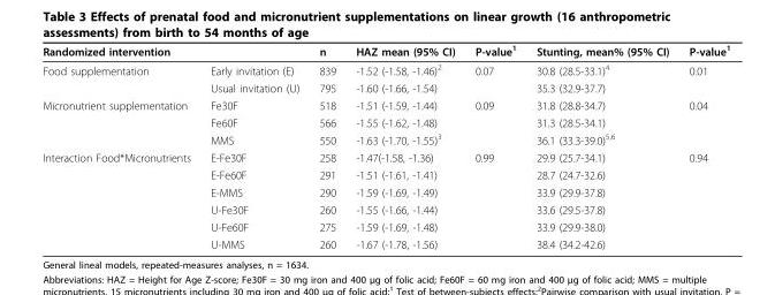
<table><thead><tr><td colspan="2">Randomized intervention</td><td rowspan="2">n 839</td><td rowspan="2">HAZ mean (95% CI) -1.52 (-1.58, -1.46)<sup>2</sup></td><td rowspan="2">P-value<sup>1</sup> 0.07</td><td rowspan="2">Stunting, mean% (95% CI) 30.8 (28.5-33.1)<sup>4</sup></td><td rowspan="2">P-value<sup>1</sup> 0.01</td></tr><tr><td>Food supplementation</td><td>Early invitation (E)</td></tr></thead><tbody><tr><td></td><td>Usual invitation (U)</td><td>795</td><td>-1.60 (-1.66, -1.54)</td><td></td><td>35.3 (32.9-37.7)</td><td></td></tr><tr><td rowspan="3">Micronutrient supplementation</td><td>Fe30F</td><td>518</td><td>-1.51 (-1.59, -1.44)</td><td>0.09</td><td>31.8 (28.8-34.7)</td><td>0.04</td></tr><tr><td>Fe60F</td><td>566</td><td>-1.55 (-1.62, -1.48)</td><td></td><td>31.3 (28.5-34.1)</td><td></td></tr><tr><td>MMS</td><td>550</td><td>-1.63 (-1.70, -1.55)<sup>3</sup></td><td></td><td>36.1 (33.3-39.0)<sup>5,6</sup></td><td></td></tr><tr><td rowspan="6">Interaction Food*Micronutrients</td><td>E-Fe30F</td><td>258</td><td>-1.47(-1.58, -1.36)</td><td>0.99</td><td>29.9 (25.7-34.1)</td><td>0.94</td></tr><tr><td>E-Fe60F</td><td>291</td><td>-1.51 (-1.61, -1.41)</td><td></td><td>28.7 (24.7-32.6)</td><td></td></tr><tr><td>E-MMS</td><td>290</td><td>-1.59 (-1.69, -1.49)</td><td></td><td>33.9 (29.9-37.8)</td><td></td></tr><tr><td>U-Fe30F</td><td>260</td><td>-1.55 (-1.66, -1.44)</td><td></td><td>33.6 (29.5-37.8)</td><td></td></tr><tr><td>U-Fe60F</td><td>275</td><td>-1.59 (-1.69, -1.48)</td><td></td><td>33.9 (29.9-38.0)</td><td></td></tr><tr><td>U-MMS</td><td>260</td><td>-1.67 (-1.78, -1.56)</td><td></td><td>38.4 (34.2-42.6)</td><td></td></tr></tbody></table>